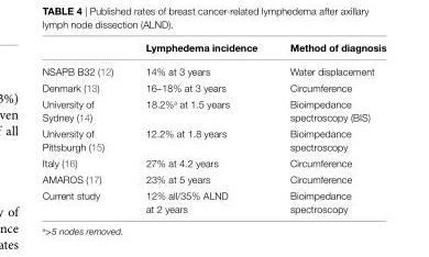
<table><thead><tr><td></td><td>lymphedema incidence</td><td>Method of diagnosis</td></tr></thead><tbody><tr><td>NSAPB B32 (12)</td><td>14% at 3 years</td><td>Water displacement</td></tr><tr><td>Denmark (13)</td><td>16–18% at 3 years</td><td>Circumference</td></tr><tr><td>University of Sydney (14)</td><td>18.2%<sup>a</sup> at 1.5 years</td><td>Bioimpedance spectroscopy (BIS)</td></tr><tr><td>University of Pittsburgh (15)</td><td>12.2% at 1.8 years</td><td>Bioimpedance spectroscopy</td></tr><tr><td>Italy (16)</td><td>27% at 4.2 years</td><td>Circumference</td></tr><tr><td>AMAROS (17)</td><td>23% at 5 years</td><td>Circumference</td></tr><tr><td>Current study</td><td>12% all/35% ALND at 2 years</td><td>Bioimpedance spectroscopy</td></tr></tbody></table>